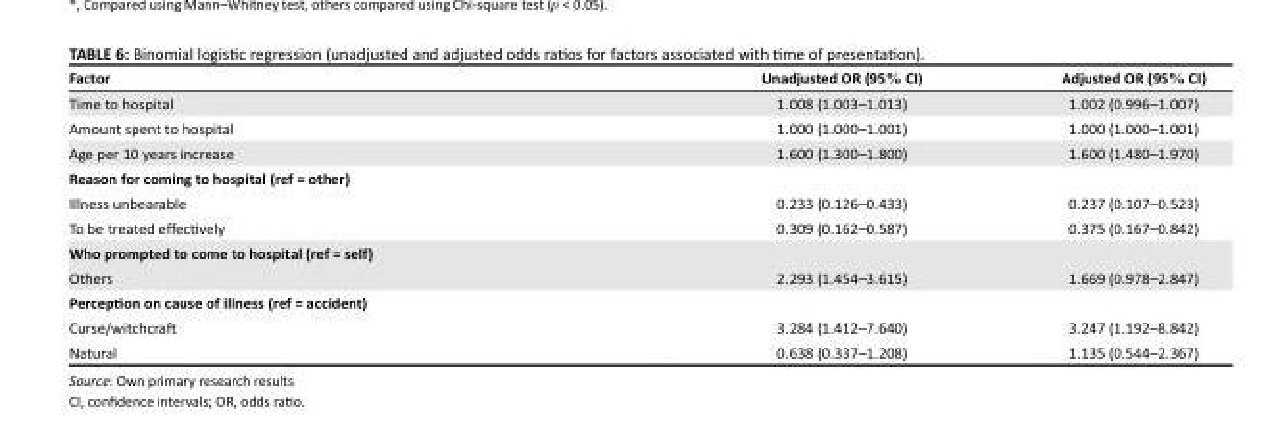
<table><thead><tr><td>Factor</td><td>Unadjusted OR (95% CI)</td><td>Adjusted OR (95% CI)</td></tr></thead><tbody><tr><td>Time to hospital</td><td>1.008 (1.003–1.013)</td><td>1.002 (0.996–1.007)</td></tr><tr><td>Amount spent to hospital</td><td>1.000 (1.000–1.001)</td><td>1.000 (1.000–1.001)</td></tr><tr><td>Age per 10 years increase</td><td>1.600 (1.300–1.800)</td><td>1.600 (1.480–1.970)</td></tr><tr><td colspan="3">Reason for coming to hospital (ref = other)</td></tr><tr><td>Illness unbearable</td><td>0.233 (0.126–0.433)</td><td>0.237 (0.107–0.523)</td></tr><tr><td>To be treated effectively</td><td>0.309 (0.162–0.587)</td><td>0.375 (0.167–0.842)</td></tr><tr><td colspan="3">Who prompted to come to hospital (ref = self)</td></tr><tr><td>Others</td><td>2.293 (1.454–3.615)</td><td>1.669 (0.978–2.847)</td></tr><tr><td colspan="3">Perception on cause of illness (ref = accident)</td></tr><tr><td>Curse/witchcraft</td><td>3.284 (1.412–7.640)</td><td>3.247 (1.192–8.842)</td></tr><tr><td>Natural</td><td>0.638 (0.337–1.208)</td><td>1.135 (0.544–2.367)</td></tr></tbody></table>